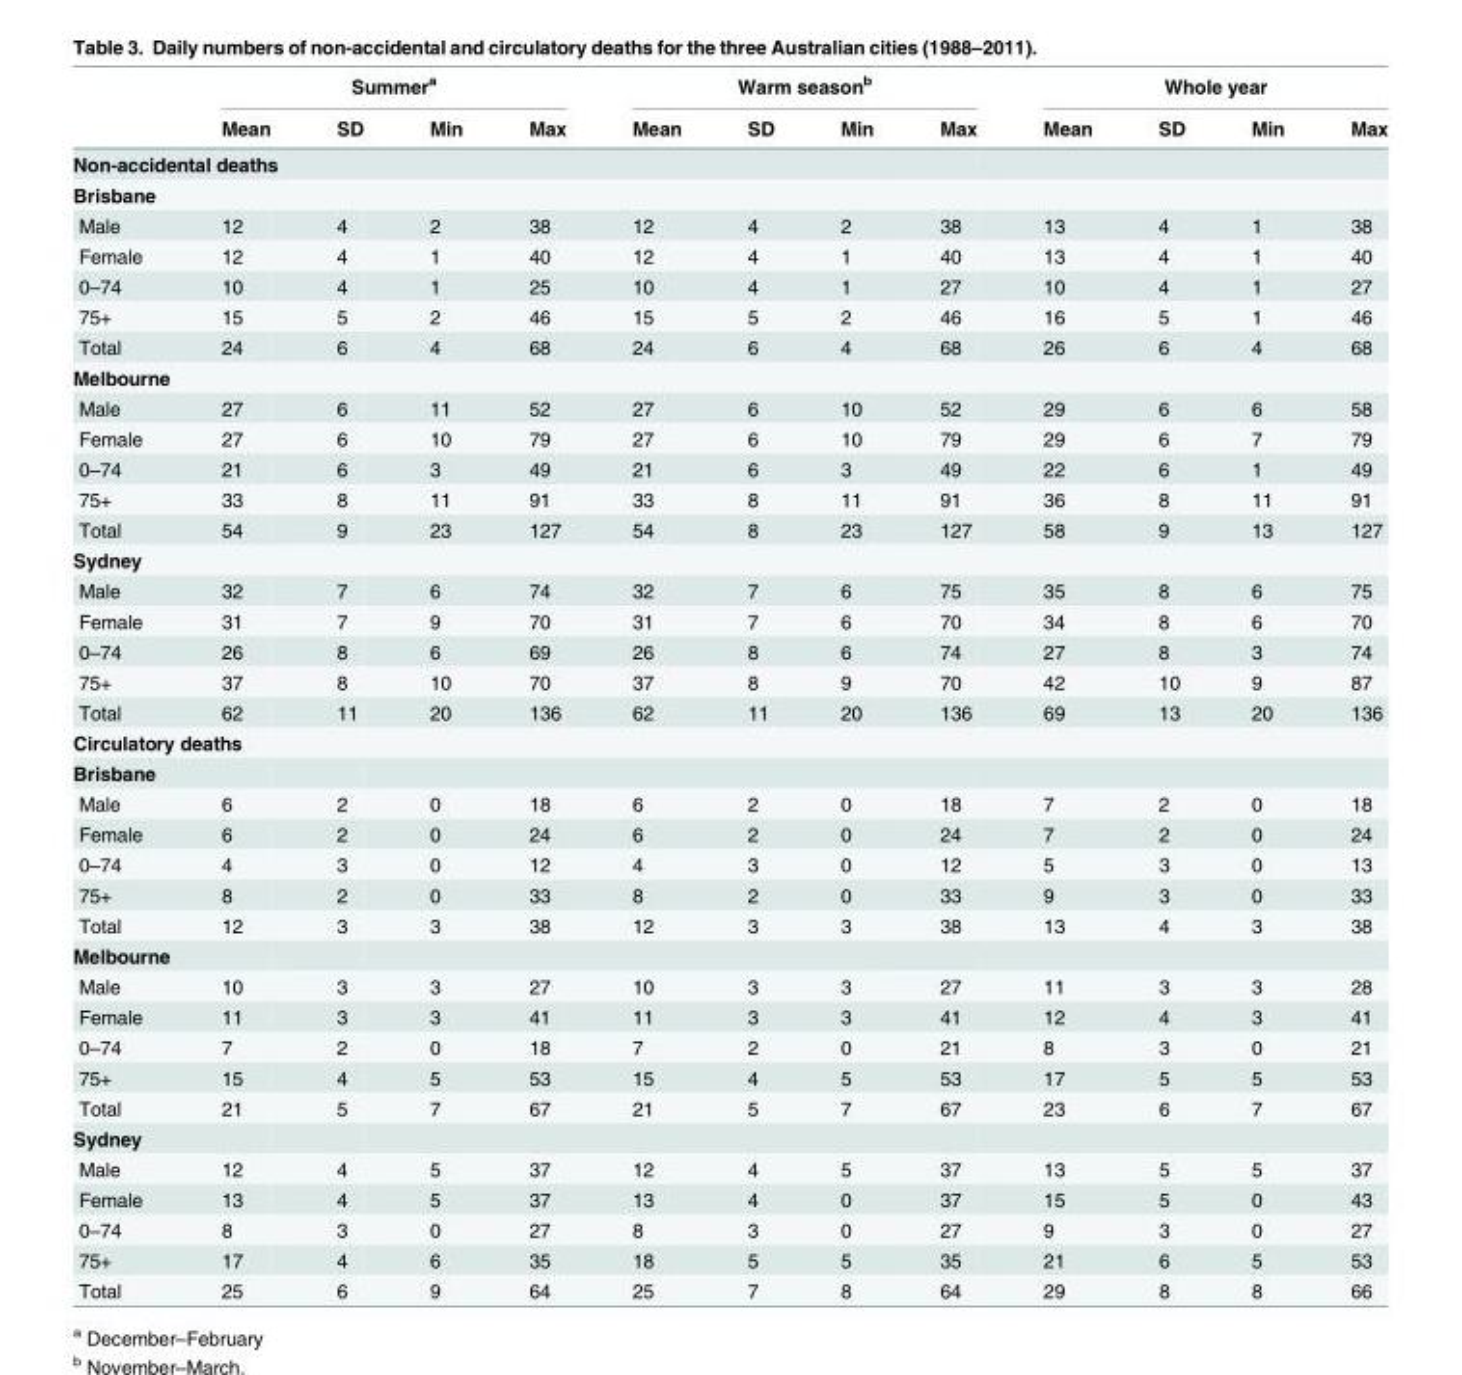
<table><thead><tr><td rowspan="2"></td><td colspan="4">Summer<sup>a</sup></td><td colspan="4">Warm season<sup>b</sup></td><td colspan="4">Whole year</td></tr><tr><td>Mean</td><td>SD</td><td>Min</td><td>Max</td><td>Mean</td><td>SD</td><td>Min</td><td>Max</td><td>Mean</td><td>SD</td><td>Min</td><td>Max</td></tr></thead><tbody><tr><td colspan="13">Non-accidental deaths</td></tr><tr><td colspan="13">Brisbane</td></tr><tr><td>Male</td><td>12</td><td>4</td><td>2</td><td>38</td><td>12</td><td>4</td><td>2</td><td>38</td><td>13</td><td>4</td><td>1</td><td>38</td></tr><tr><td>Female</td><td>12</td><td>4</td><td>1</td><td>40</td><td>12</td><td>4</td><td>1</td><td>40</td><td>13</td><td>4</td><td>1</td><td>40</td></tr><tr><td>0–74</td><td>10</td><td>4</td><td>1</td><td>25</td><td>10</td><td>4</td><td>1</td><td>27</td><td>10</td><td>4</td><td>1</td><td>27</td></tr><tr><td>75+</td><td>15</td><td>5</td><td>2</td><td>46</td><td>15</td><td>5</td><td>2</td><td>46</td><td>16</td><td>5</td><td>1</td><td>46</td></tr><tr><td>Total</td><td>24</td><td>6</td><td>4</td><td>68</td><td>24</td><td>6</td><td>4</td><td>68</td><td>26</td><td>6</td><td>4</td><td>68</td></tr><tr><td colspan="13">Melbourne</td></tr><tr><td>Male</td><td>27</td><td>6</td><td>11</td><td>52</td><td>27</td><td>6</td><td>10</td><td>52</td><td>29</td><td>6</td><td>6</td><td>58</td></tr><tr><td>Female</td><td>27</td><td>6</td><td>10</td><td>79</td><td>27</td><td>6</td><td>10</td><td>79</td><td>29</td><td>6</td><td>7</td><td>79</td></tr><tr><td>0–74</td><td>21</td><td>6</td><td>3</td><td>49</td><td>21</td><td>6</td><td>3</td><td>49</td><td>22</td><td>6</td><td>1</td><td>49</td></tr><tr><td>75+</td><td>33</td><td>8</td><td>11</td><td>91</td><td>33</td><td>8</td><td>11</td><td>91</td><td>36</td><td>8</td><td>11</td><td>91</td></tr><tr><td>Total</td><td>54</td><td>9</td><td>23</td><td>127</td><td>54</td><td>8</td><td>23</td><td>127</td><td>58</td><td>9</td><td>13</td><td>127</td></tr><tr><td colspan="13">Sydney</td></tr><tr><td>Male</td><td>32</td><td>7</td><td>6</td><td>74</td><td>32</td><td>7</td><td>6</td><td>75</td><td>35</td><td>8</td><td>6</td><td>75</td></tr><tr><td>Female</td><td>31</td><td>7</td><td>9</td><td>70</td><td>31</td><td>7</td><td>6</td><td>70</td><td>34</td><td>8</td><td>6</td><td>70</td></tr><tr><td>0–74</td><td>26</td><td>8</td><td>6</td><td>69</td><td>26</td><td>8</td><td>6</td><td>74</td><td>27</td><td>8</td><td>3</td><td>74</td></tr><tr><td>75+</td><td>37</td><td>8</td><td>10</td><td>70</td><td>37</td><td>8</td><td>9</td><td>70</td><td>42</td><td>10</td><td>9</td><td>87</td></tr><tr><td>Total</td><td>62</td><td>11</td><td>20</td><td>136</td><td>62</td><td>11</td><td>20</td><td>136</td><td>69</td><td>13</td><td>20</td><td>136</td></tr><tr><td colspan="13">Circulatory deaths</td></tr><tr><td colspan="13">Brisbane</td></tr><tr><td>Male</td><td>6</td><td>2</td><td>0</td><td>18</td><td>6</td><td>2</td><td>0</td><td>18</td><td>7</td><td>2</td><td>0</td><td>18</td></tr><tr><td>Female</td><td>6</td><td>2</td><td>0</td><td>24</td><td>6</td><td>2</td><td>0</td><td>24</td><td>7</td><td>2</td><td>0</td><td>24</td></tr><tr><td>0–74</td><td>4</td><td>3</td><td>0</td><td>12</td><td>4</td><td>3</td><td>0</td><td>12</td><td>5</td><td>3</td><td>0</td><td>13</td></tr><tr><td>75+</td><td>8</td><td>2</td><td>0</td><td>33</td><td>8</td><td>2</td><td>0</td><td>33</td><td>9</td><td>3</td><td>0</td><td>33</td></tr><tr><td>Total</td><td>12</td><td>3</td><td>3</td><td>38</td><td>12</td><td>3</td><td>3</td><td>38</td><td>13</td><td>4</td><td>3</td><td>38</td></tr><tr><td colspan="13">Melbourne</td></tr><tr><td>Male</td><td>10</td><td>3</td><td>3</td><td>27</td><td>10</td><td>3</td><td>3</td><td>27</td><td>11</td><td>3</td><td>3</td><td>28</td></tr><tr><td>Female</td><td>11</td><td>3</td><td>3</td><td>41</td><td>11</td><td>3</td><td>3</td><td>41</td><td>12</td><td>4</td><td>3</td><td>41</td></tr><tr><td>0–74</td><td>7</td><td>2</td><td>0</td><td>18</td><td>7</td><td>2</td><td>0</td><td>21</td><td>8</td><td>3</td><td>0</td><td>21</td></tr><tr><td>75+</td><td>15</td><td>4</td><td>5</td><td>53</td><td>15</td><td>4</td><td>5</td><td>53</td><td>17</td><td>5</td><td>5</td><td>53</td></tr><tr><td>Total</td><td>21</td><td>5</td><td>7</td><td>67</td><td>21</td><td>5</td><td>7</td><td>67</td><td>23</td><td>6</td><td>7</td><td>67</td></tr><tr><td colspan="13">Sydney</td></tr><tr><td>Male</td><td>12</td><td>4</td><td>5</td><td>37</td><td>12</td><td>4</td><td>5</td><td>37</td><td>13</td><td>5</td><td>5</td><td>37</td></tr><tr><td>Female</td><td>13</td><td>4</td><td>5</td><td>37</td><td>13</td><td>4</td><td>0</td><td>37</td><td>15</td><td>5</td><td>0</td><td>43</td></tr><tr><td>0–74</td><td>8</td><td>3</td><td>0</td><td>27</td><td>8</td><td>3</td><td>0</td><td>27</td><td>9</td><td>3</td><td>0</td><td>27</td></tr><tr><td>75+</td><td>17</td><td>4</td><td>6</td><td>35</td><td>18</td><td>5</td><td>5</td><td>35</td><td>21</td><td>6</td><td>5</td><td>53</td></tr><tr><td>Total</td><td>25</td><td>6</td><td>9</td><td>64</td><td>25</td><td>7</td><td>8</td><td>64</td><td>29</td><td>8</td><td>8</td><td>66</td></tr></tbody></table>